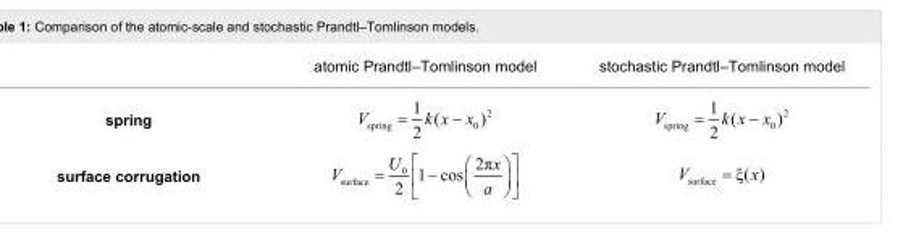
<table><thead><tr><td></td><td>atomic Prandtl–Tomlinson model</td><td>stochastic Prandtl–Tomlinson model</td></tr></thead><tbody><tr><td colspan="3">spring</td></tr><tr><td>surface corrugation</td><td></td><td></td></tr></tbody></table>